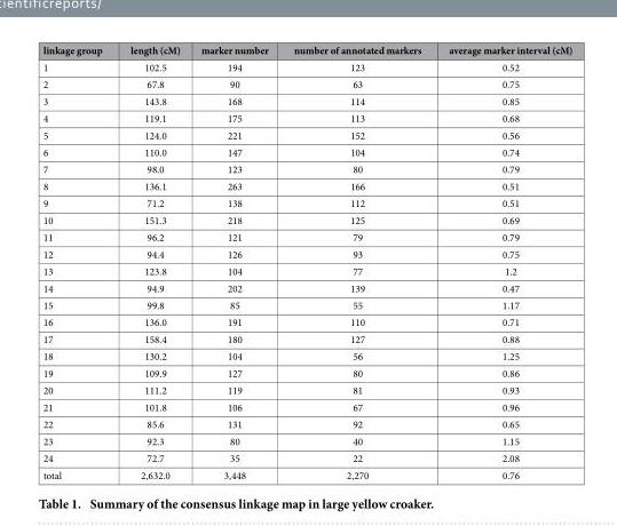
<table><thead><tr><td>linkage group</td><td>length (cM)</td><td>marker number</td><td>number of annotated markers</td><td>average marker interval (cM)</td></tr></thead><tbody><tr><td>1</td><td>102.5</td><td>194</td><td>123</td><td>0.52</td></tr><tr><td>2</td><td>67.8</td><td>90</td><td>63</td><td>0.75</td></tr><tr><td>3</td><td>143.8</td><td>168</td><td>114</td><td>0.85</td></tr><tr><td>4</td><td>119.1</td><td>175</td><td>113</td><td>0.68</td></tr><tr><td>5</td><td>124.0</td><td>221</td><td>152</td><td>0.56</td></tr><tr><td>6</td><td>110.0</td><td>147</td><td>104</td><td>0.74</td></tr><tr><td>7</td><td>98.0</td><td>123</td><td>80</td><td>0.79</td></tr><tr><td>8</td><td>136.1</td><td>263</td><td>166</td><td>0.51</td></tr><tr><td>9</td><td>71.2</td><td>138</td><td>112</td><td>0.51</td></tr><tr><td>10</td><td>151.3</td><td>218</td><td>125</td><td>0.69</td></tr><tr><td>11</td><td>96.2</td><td>121</td><td>79</td><td>0.79</td></tr><tr><td>12</td><td>94.4</td><td>126</td><td>93</td><td>0.75</td></tr><tr><td>13</td><td>123.8</td><td>104</td><td>77</td><td>1.2</td></tr><tr><td>14</td><td>94.9</td><td>202</td><td>139</td><td>0.47</td></tr><tr><td>15</td><td>99.8</td><td>85</td><td>55</td><td>1.17</td></tr><tr><td>16</td><td>136.0</td><td>191</td><td>110</td><td>0.71</td></tr><tr><td>17</td><td>158.4</td><td>180</td><td>127</td><td>0.88</td></tr><tr><td>18</td><td>130.2</td><td>104</td><td>56</td><td>1.25</td></tr><tr><td>19</td><td>109.9</td><td>127</td><td>80</td><td>0.86</td></tr><tr><td>20</td><td>111.2</td><td>119</td><td>81</td><td>0.93</td></tr><tr><td>21</td><td>101.8</td><td>106</td><td>67</td><td>0.96</td></tr><tr><td>22</td><td>85.6</td><td>131</td><td>92</td><td>0.65</td></tr><tr><td>23</td><td>92.3</td><td>80</td><td>40</td><td>1.15</td></tr><tr><td>24</td><td>72.7</td><td>35</td><td>22</td><td>2.08</td></tr><tr><td>total</td><td>2,632.0</td><td>3,448</td><td>2,270</td><td>0.76</td></tr></tbody></table>